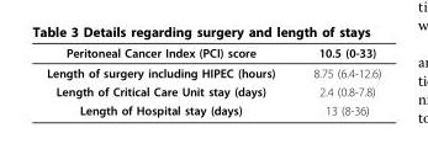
<table><thead><tr><td>Peritoneal Cancer Index (PCI) score</td><td>10.5 (0-33)</td></tr></thead><tbody><tr><td>Length of surgery including HIPEC (hours)</td><td>8.75 (6.4-12.6)</td></tr><tr><td>Length of Critical Care Unit stay (days)</td><td>2.4 (0.8-7.8)</td></tr><tr><td>Length of Hospital stay (days)</td><td>13 (8-36)</td></tr></tbody></table>